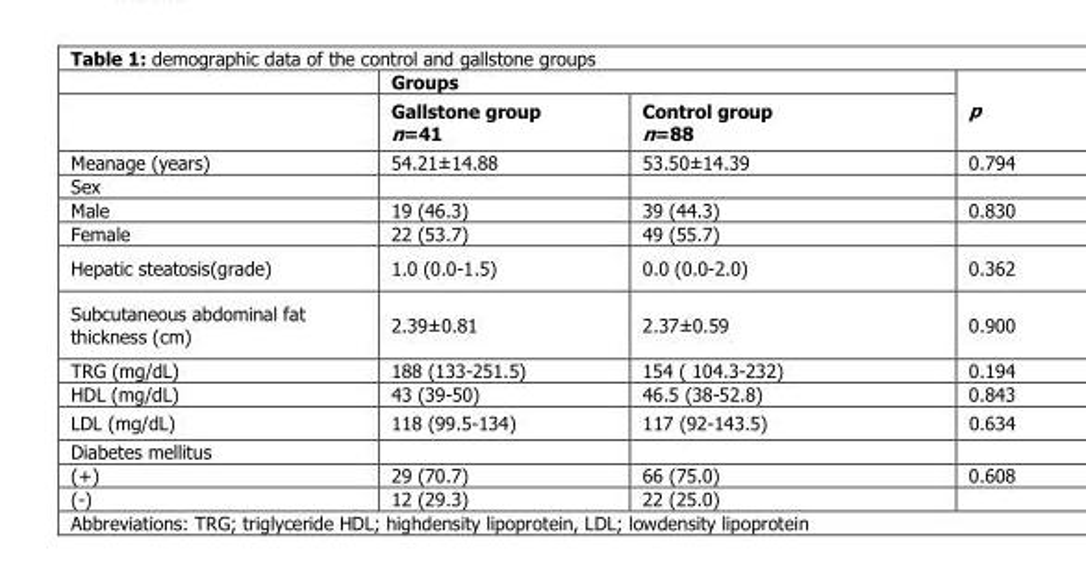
<table><thead><tr><td rowspan="2"></td><td colspan="2">Groups</td><td rowspan="2">p</td></tr><tr><td>Gallstone group n=41</td><td>Control group n=88</td></tr></thead><tbody><tr><td>Meanage (years)</td><td>54.21±14.88</td><td>53.50±14.39</td><td>0.794</td></tr><tr><td colspan="4">Sex</td></tr><tr><td>Male</td><td>19 (46.3)</td><td>39 (44.3)</td><td>0.830</td></tr><tr><td>Female</td><td>22 (53.7)</td><td>49 (55.7)</td><td></td></tr><tr><td>Hepatic steatosis(grade)</td><td>1.0 (0.0-1.5)</td><td>0.0 (0.0-2.0)</td><td>0.362</td></tr><tr><td>Subcutaneous abdominal fat thickness (cm)</td><td>2.39±0.81</td><td>2.37±0.59</td><td>0.900</td></tr><tr><td>TRG (mg/dL)</td><td>188 (133-251.5)</td><td>154 ( 104.3-232)</td><td>0.194</td></tr><tr><td>HDL (mg/dL)</td><td>43 (39-50)</td><td>46.5 (38-52.8)</td><td>0.843</td></tr><tr><td>LDL (mg/dL)</td><td>118 (99.5-134)</td><td>117 (92-143.5)</td><td>0.634</td></tr><tr><td colspan="4">Diabetes mellitus</td></tr><tr><td>(+)</td><td>29 (70.7)</td><td>66 (75.0)</td><td>0.608</td></tr><tr><td>(-)</td><td>12 (29.3)</td><td>22 (25.0)</td><td></td></tr></tbody></table>